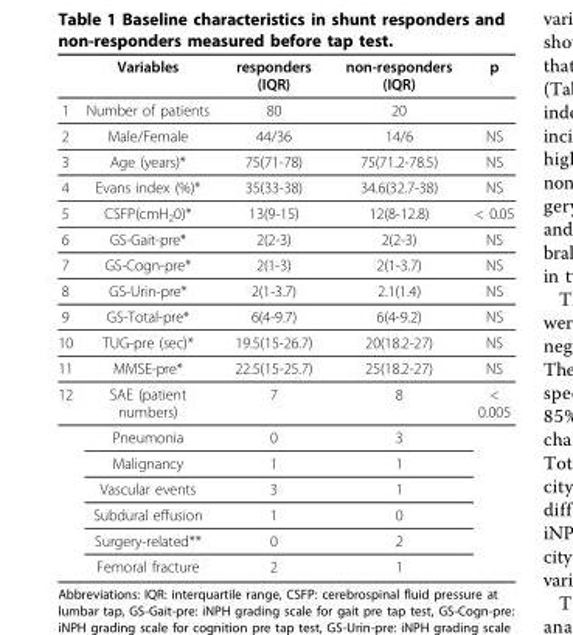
<table><thead><tr><td></td><td>Variables</td><td>responders (IQR)</td><td>non-responders (IQR)</td><td>p</td></tr></thead><tbody><tr><td>1</td><td>Number of patients</td><td>80</td><td>20</td><td></td></tr><tr><td>2</td><td>Male/Female</td><td>44/36</td><td>14/6</td><td>NS</td></tr><tr><td>3</td><td>Age (years)*</td><td>75(71-78)</td><td>75(71.2-78.5)</td><td>NS</td></tr><tr><td>4</td><td>Evans index (%)*</td><td>35(33-38)</td><td>34.6(32.7-38)</td><td>NS</td></tr><tr><td>5</td><td>CSFP(cmH<sub>2</sub>0)*</td><td>13(9-15)</td><td>12(8-12.8)</td><td>&lt; 0.05</td></tr><tr><td>6</td><td>GS-Gait-pre*</td><td>2(2-3)</td><td>2(2-3)</td><td>NS</td></tr><tr><td>7</td><td>GS-Cogn-pre*</td><td>2(1-3)</td><td>2(1-3.7)</td><td>NS</td></tr><tr><td>8</td><td>GS-Urin-pre*</td><td>2(1-3.7)</td><td>2.1(1.4)</td><td>NS</td></tr><tr><td>9</td><td>GS-Total-pre*</td><td>6(4-9.7)</td><td>6(4-9.2)</td><td>NS</td></tr><tr><td>10</td><td>TUG-pre (sec)*</td><td>19.5(15-26.7)</td><td>20(18.2-27)</td><td>NS</td></tr><tr><td>11</td><td>MMSE-pre*</td><td>22.5(15-25.7)</td><td>25(18.2-27)</td><td>NS</td></tr><tr><td rowspan="7">12</td><td>SAE (patient numbers)</td><td>7</td><td>8</td><td>&lt; 0.005</td></tr><tr><td>Pneumonia</td><td>0</td><td>3</td><td></td></tr><tr><td>Malignancy</td><td>1</td><td>1</td><td></td></tr><tr><td>Vascular events</td><td>3</td><td>1</td><td></td></tr><tr><td>Subdural effusion</td><td>1</td><td>0</td><td></td></tr><tr><td>Surgery-related**</td><td>0</td><td>2</td><td></td></tr><tr><td>Femoral fracture</td><td>2</td><td>1</td><td></td></tr></tbody></table>